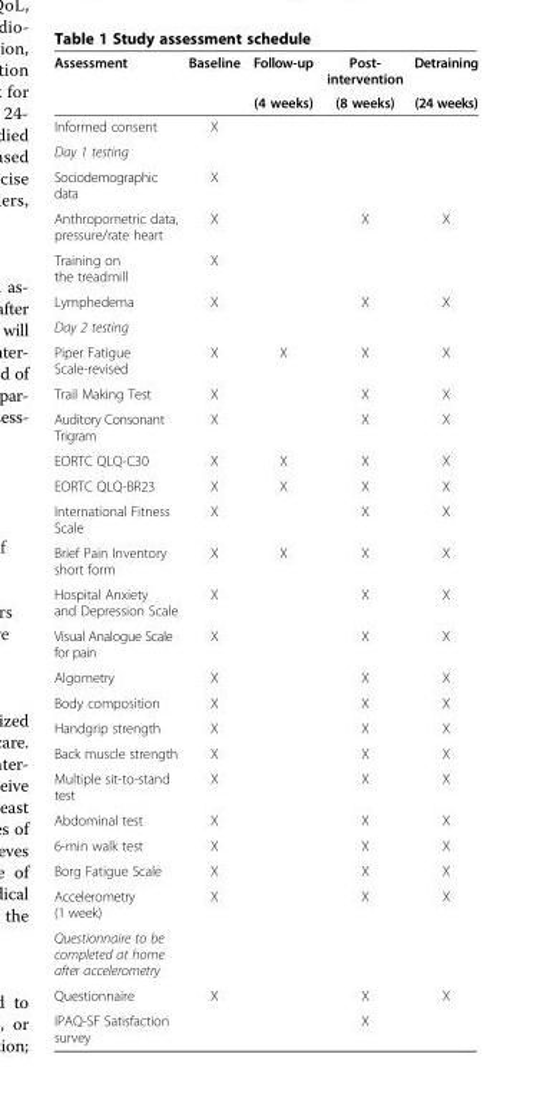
<table><thead><tr><td rowspan="2">Assessment</td><td rowspan="2">Baseline</td><td rowspan="2">Follow-up (4 weeks)</td><td rowspan="2">Post- intervention (8 weeks)</td><td rowspan="2">Detraining (24 weeks)</td></tr><tr></tr></thead><tbody><tr><td>Informed consent</td><td>X</td><td></td><td></td><td></td></tr><tr><td colspan="5">Day 1 testing</td></tr><tr><td>Sociodemographic data</td><td>X</td><td></td><td></td><td></td></tr><tr><td>Anthropometric data, pressure/rate heart</td><td>X</td><td></td><td>X</td><td>X</td></tr><tr><td>Training on the treadmill</td><td>X</td><td></td><td></td><td></td></tr><tr><td>Lymphedema</td><td>X</td><td></td><td>X</td><td>X</td></tr><tr><td colspan="5">Day 2 testing</td></tr><tr><td>Piper Fatigue Scale-revised</td><td>X</td><td>X</td><td>X</td><td>X</td></tr><tr><td>Trail Making Test</td><td>X</td><td></td><td>X</td><td>X</td></tr><tr><td>Auditory Consonant Trigram</td><td>X</td><td></td><td>X</td><td>X</td></tr><tr><td>EORTC QLQ-C30</td><td>X</td><td>X</td><td>X</td><td>X</td></tr><tr><td>EORTC QLQ-BR23</td><td>X</td><td>X</td><td>X</td><td>X</td></tr><tr><td>International Fitness Scale</td><td>X</td><td></td><td>X</td><td>X</td></tr><tr><td>Brief Pain Inventory short form</td><td>X</td><td>X</td><td>X</td><td>X</td></tr><tr><td>Hospital Anxiety and Depression Scale</td><td>X</td><td></td><td>X</td><td>X</td></tr><tr><td>Visual Analogue Scale for pain</td><td>X</td><td></td><td>X</td><td>X</td></tr><tr><td>Algometry</td><td>X</td><td></td><td>X</td><td>X</td></tr><tr><td>Body composition</td><td>X</td><td></td><td>X</td><td>X</td></tr><tr><td>Handgrip strength</td><td>X</td><td></td><td>X</td><td>X</td></tr><tr><td>Back muscle strength</td><td>X</td><td></td><td>X</td><td>X</td></tr><tr><td>Multiple sit-to-stand test</td><td>X</td><td></td><td>X</td><td>X</td></tr><tr><td>Abdominal test</td><td>X</td><td></td><td>X</td><td>X</td></tr><tr><td>6-min walk test</td><td>X</td><td></td><td>X</td><td>X</td></tr><tr><td>Borg Fatigue Scale</td><td>X</td><td></td><td>X</td><td>X</td></tr><tr><td>Accelerometry (1 week)</td><td>X</td><td></td><td>X</td><td>X</td></tr><tr><td colspan="5">Questionnaire to be completed at home after accelerometry</td></tr><tr><td>Questionnaire</td><td>X</td><td></td><td>X</td><td>X</td></tr><tr><td>IPAQ-SF Satisfaction survey</td><td></td><td></td><td>X</td><td></td></tr></tbody></table>